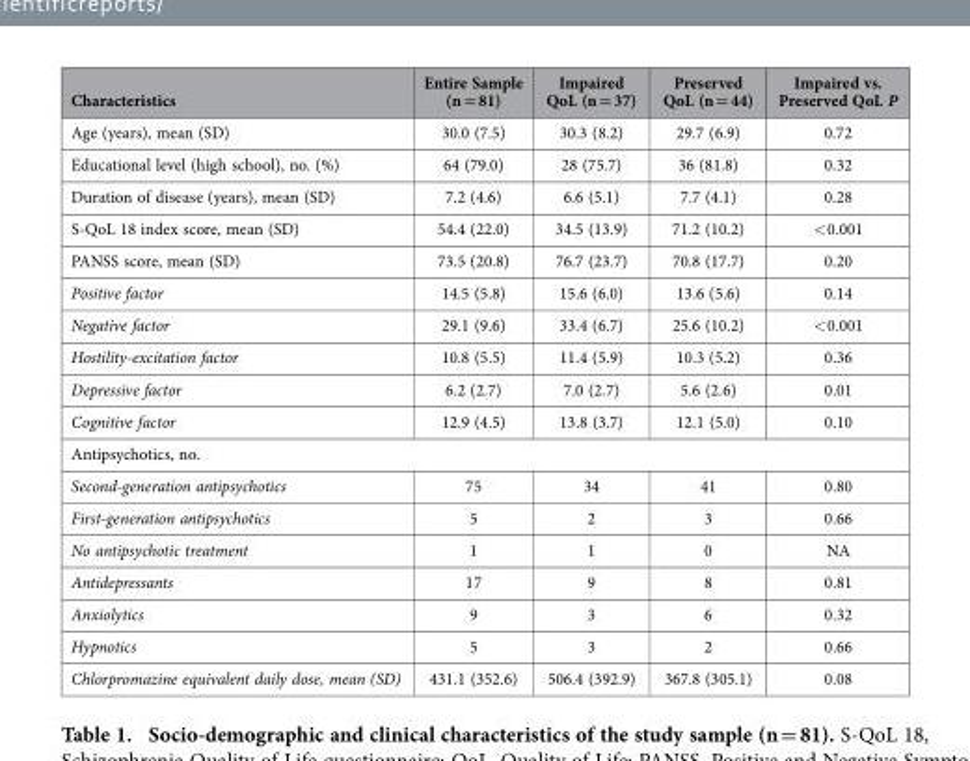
<table><thead><tr><td>Characteristics</td><td>Entire Sample (n = 81)</td><td>Impaired QoL (n = 37)</td><td>Preserved QoL (n = 44)</td><td>Impaired vs. Preserved QoL P</td></tr></thead><tbody><tr><td>Age (years), mean (SD)</td><td>30.0 (7.5)</td><td>30.3 (8.2)</td><td>29.7 (6.9)</td><td>0.72</td></tr><tr><td>Educational level (high school), no. (%)</td><td>64 (79.0)</td><td>28 (75.7)</td><td>36 (81.8)</td><td>0.32</td></tr><tr><td>Duration of disease (years), mean (SD)</td><td>7.2 (4.6)</td><td>6.6 (5.1)</td><td>7.7 (4.1)</td><td>0.28</td></tr><tr><td>S-QoL 18 index score, mean (SD)</td><td>54.4 (22.0)</td><td>34.5 (13.9)</td><td>71.2 (10.2)</td><td>&lt; 0.001</td></tr><tr><td>PANSS score, mean (SD)</td><td>73.5 (20.8)</td><td>76.7 (23.7)</td><td>70.8 (17.7)</td><td>0.20</td></tr><tr><td>Positive factor</td><td>14.5 (5.8)</td><td>15.6 (6.0)</td><td>13.6 (5.6)</td><td>0.14</td></tr><tr><td>Negative factor</td><td>29.1 (9.6)</td><td>33.4 (6.7)</td><td>25.6 (10.2)</td><td>&lt; 0.001</td></tr><tr><td>Hostility-excitation factor</td><td>10.8 (5.5)</td><td>11.4 (5.9)</td><td>10.3 (5.2)</td><td>0.36</td></tr><tr><td>Depressive factor</td><td>6.2 (2.7)</td><td>7.0 (2.7)</td><td>5.6 (2.6)</td><td>0.01</td></tr><tr><td>Cognitive factor</td><td>12.9 (4.5)</td><td>13.8 (3.7)</td><td>12.1 (5.0)</td><td>0.10</td></tr><tr><td colspan="5">Antipsychotics, no.</td></tr><tr><td>Second-generation antipsychotics</td><td>75</td><td>34</td><td>41</td><td>0.80</td></tr><tr><td>First-generation antipsychotics</td><td>5</td><td>2</td><td>3</td><td>0.66</td></tr><tr><td>No antipsychotic treatment</td><td>1</td><td>1</td><td>0</td><td>NA</td></tr><tr><td>Antidepressants</td><td>17</td><td>9</td><td>8</td><td>0.81</td></tr><tr><td>Anxiolytics</td><td>9</td><td>3</td><td>6</td><td>0.32</td></tr><tr><td>Hypnotics</td><td>5</td><td>3</td><td>2</td><td>0.66</td></tr><tr><td>Chlorpromazine equivalent daily dose, mean (SD)</td><td>431.1 (352.6)</td><td>506.4 (392.9)</td><td>367.8 (305.1)</td><td>0.08</td></tr></tbody></table>